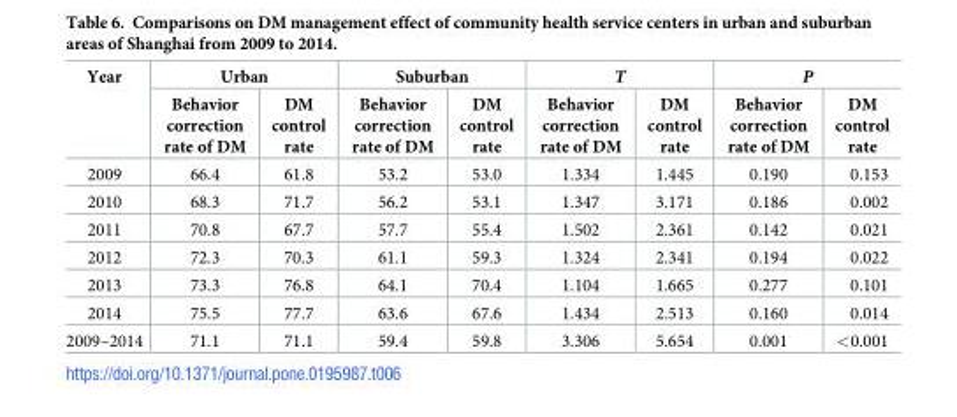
<table><thead><tr><td rowspan="2">Year</td><td colspan="2">Urban</td><td colspan="2">Suburban</td><td colspan="2">T</td><td colspan="2">P</td></tr><tr><td>Behavior correction rate of DM</td><td>DM control rate</td><td>Behavior correction rate of DM</td><td>DM control rate</td><td>Behavior correction rate of DM</td><td>DM control rate</td><td>Behavior correction rate of DM</td><td>DM control rate</td></tr></thead><tbody><tr><td>2009</td><td>66.4</td><td>61.8</td><td>53.2</td><td>53.0</td><td>1.334</td><td>1.445</td><td>0.190</td><td>0.153</td></tr><tr><td>2010</td><td>68.3</td><td>71.7</td><td>56.2</td><td>53.1</td><td>1.347</td><td>3.171</td><td>0.186</td><td>0.002</td></tr><tr><td>2011</td><td>70.8</td><td>67.7</td><td>57.7</td><td>55.4</td><td>1.502</td><td>2.361</td><td>0.142</td><td>0.021</td></tr><tr><td>2012</td><td>72.3</td><td>70.3</td><td>61.1</td><td>59.3</td><td>1.324</td><td>2.341</td><td>0.194</td><td>0.022</td></tr><tr><td>2013</td><td>73.3</td><td>76.8</td><td>64.1</td><td>70.4</td><td>1.104</td><td>1.665</td><td>0.277</td><td>0.101</td></tr><tr><td>2014</td><td>75.5</td><td>77.7</td><td>63.6</td><td>67.6</td><td>1.434</td><td>2.513</td><td>0.160</td><td>0.014</td></tr><tr><td>2009–2014</td><td>71.1</td><td>71.1</td><td>59.4</td><td>59.8</td><td>3.306</td><td>5.654</td><td>0.001</td><td>&lt;0.001</td></tr></tbody></table>